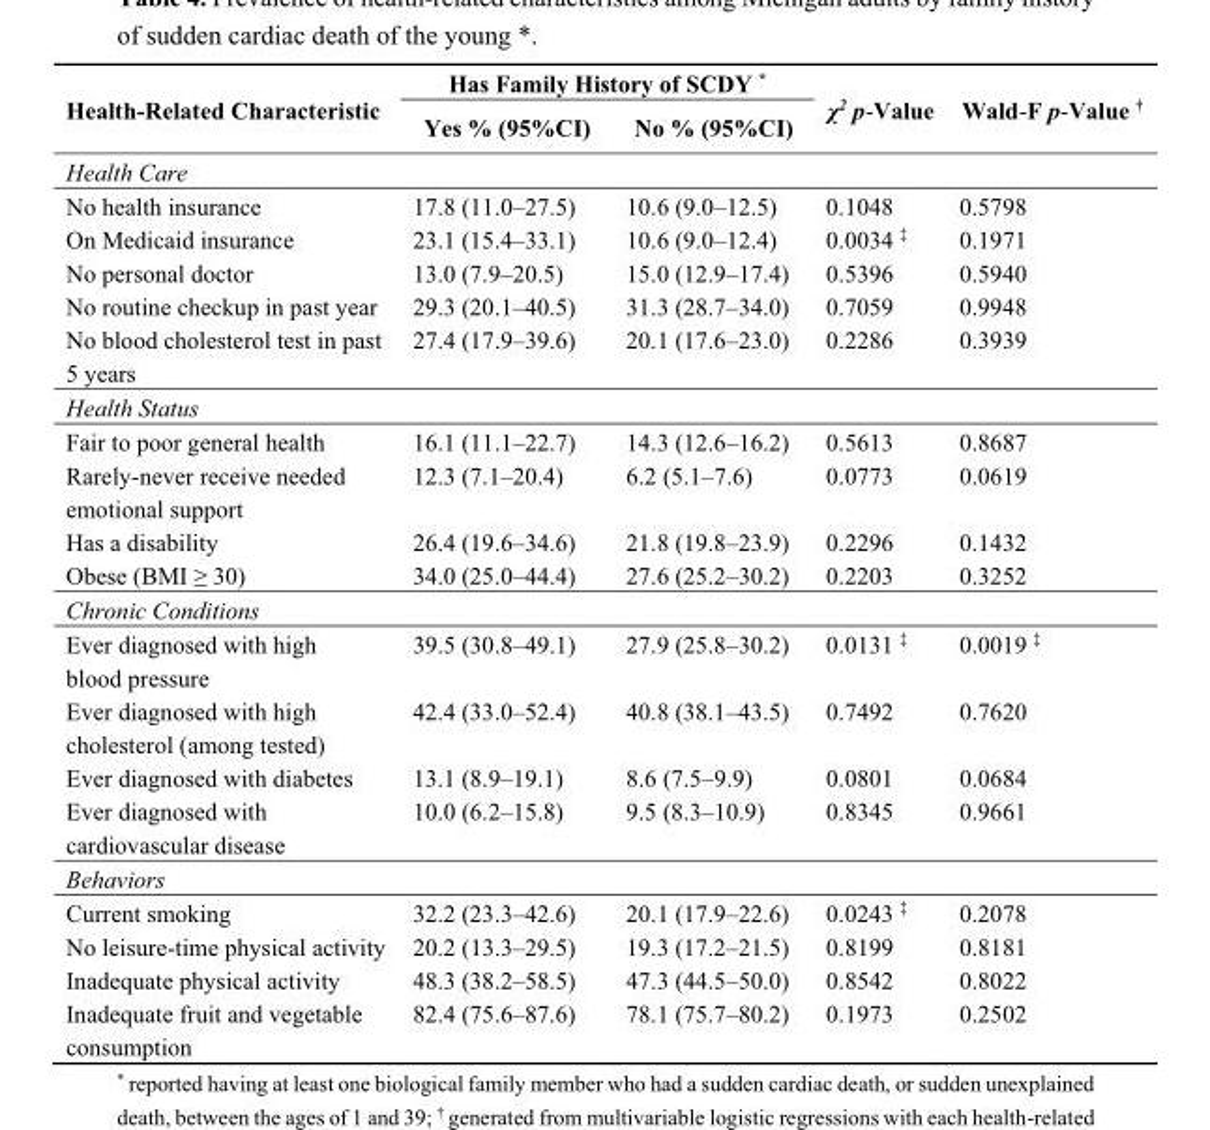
<table><thead><tr><td rowspan="2">Health-Related Characteristic</td><td colspan="2">Has Family History of SCDY *</td><td rowspan="2">χ<sup>2</sup> p-Value</td><td rowspan="2">Wald-F p-Value <sup>†</sup></td></tr><tr><td>Yes % (95%CI)</td><td>No % (95%CI)</td></tr></thead><tbody><tr><td colspan="5">Health Care</td></tr><tr><td>No health insurance</td><td>17.8 (11.0–27.5)</td><td>10.6 (9.0–12.5)</td><td>0.1048</td><td>0.5798</td></tr><tr><td>On Medicaid insurance</td><td>23.1 (15.4–33.1)</td><td>10.6 (9.0–12.4)</td><td>0.0034 <sup>‡</sup></td><td>0.1971</td></tr><tr><td>No personal doctor</td><td>13.0 (7.9–20.5)</td><td>15.0 (12.9–17.4)</td><td>0.5396</td><td>0.5940</td></tr><tr><td>No routine checkup in past year</td><td>29.3 (20.1–40.5)</td><td>31.3 (28.7–34.0)</td><td>0.7059</td><td>0.9948</td></tr><tr><td>No blood cholesterol test in past 5 years</td><td>27.4 (17.9–39.6)</td><td>20.1 (17.6–23.0)</td><td>0.2286</td><td>0.3939</td></tr><tr><td colspan="5">Health Status</td></tr><tr><td>Fair to poor general health</td><td>16.1 (11.1–22.7)</td><td>14.3 (12.6–16.2)</td><td>0.5613</td><td>0.8687</td></tr><tr><td>Rarely-never receive needed emotional support</td><td>12.3 (7.1–20.4)</td><td>6.2 (5.1–7.6)</td><td>0.0773</td><td>0.0619</td></tr><tr><td>Has a disability</td><td>26.4 (19.6–34.6)</td><td>21.8 (19.8–23.9)</td><td>0.2296</td><td>0.1432</td></tr><tr><td>Obese (BMI ≥ 30)</td><td>34.0 (25.0–44.4)</td><td>27.6 (25.2–30.2)</td><td>0.2203</td><td>0.3252</td></tr><tr><td colspan="5">Chronic Conditions</td></tr><tr><td>Ever diagnosed with high blood pressure</td><td>39.5 (30.8–49.1)</td><td>27.9 (25.8–30.2)</td><td>0.0131 <sup>‡</sup></td><td>0.0019 <sup>‡</sup></td></tr><tr><td>Ever diagnosed with high cholesterol (among tested)</td><td>42.4 (33.0–52.4)</td><td>40.8 (38.1–43.5)</td><td>0.7492</td><td>0.7620</td></tr><tr><td>Ever diagnosed with diabetes</td><td>13.1 (8.9–19.1)</td><td>8.6 (7.5–9.9)</td><td>0.0801</td><td>0.0684</td></tr><tr><td>Ever diagnosed with cardiovascular disease</td><td>10.0 (6.2–15.8)</td><td>9.5 (8.3–10.9)</td><td>0.8345</td><td>0.9661</td></tr><tr><td colspan="5">Behaviors</td></tr><tr><td>Current smoking</td><td>32.2 (23.3–42.6)</td><td>20.1 (17.9–22.6)</td><td>0.0243 <sup>‡</sup></td><td>0.2078</td></tr><tr><td>No leisure-time physical activity</td><td>20.2 (13.3–29.5)</td><td>19.3 (17.2–21.5)</td><td>0.8199</td><td>0.8181</td></tr><tr><td>Inadequate physical activity</td><td>48.3 (38.2–58.5)</td><td>47.3 (44.5–50.0)</td><td>0.8542</td><td>0.8022</td></tr><tr><td>Inadequate fruit and vegetable consumption</td><td>82.4 (75.6–87.6)</td><td>78.1 (75.7–80.2)</td><td>0.1973</td><td>0.2502</td></tr></tbody></table>